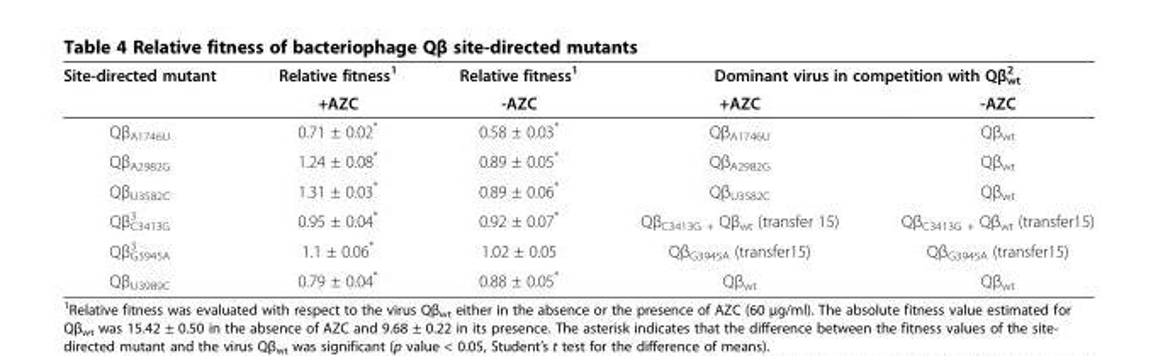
<table><thead><tr><td rowspan="2">Site-directed mutant</td><td rowspan="2">Relative fitness<sup>1</sup> +AZC</td><td rowspan="2">Relative fitness<sup>1</sup> -AZC</td><td colspan="2">Dominant virus in competition with Qβ<sub>wt</sub> <sup>2</sup></td></tr><tr><td>+AZC</td><td>-AZC</td></tr></thead><tbody><tr><td>Qβ<sub>A1746U</sub></td><td>0.71 ± 0.02*</td><td>0.58 ± 0.03*</td><td>Qβ<sub>A1746U</sub></td><td>Qβ<sub>wt</sub></td></tr><tr><td>Qβ<sub>A2982G</sub></td><td>1.24 ± 0.08*</td><td>0.89 ± 0.05*</td><td>Qβ<sub>A2982G</sub></td><td>Qβ<sub>wt</sub></td></tr><tr><td>Qβ<sub>U3582C</sub></td><td>1.31 ± 0.03*</td><td>0.89 ± 0.06*</td><td>Qβ<sub>U3582C</sub></td><td>Qβ<sub>wt</sub></td></tr><tr><td>Qβ<sub>C3413G</sub> <sup>3</sup></td><td>0.95 ± 0.04*</td><td>0.92 ± 0.07*</td><td>Qβ<sub>C3413G +</sub> Qβ<sub>wt</sub> (transfer 15)</td><td>Qβ<sub>C3413G +</sub> Qβ<sub>wt</sub> (transfer15)</td></tr><tr><td>Qβ<sub>G3945A</sub> <sup>3</sup></td><td>1.1 ± 0.06*</td><td>1.02 ± 0.05</td><td>Qβ<sub>G3945A</sub> (transfer15)</td><td>Qβ<sub>G3945A</sub> (transfer15)</td></tr><tr><td>Qβ<sub>U3989C</sub></td><td>0.79 ± 0.04*</td><td>0.88 ± 0.05*</td><td>Qβ<sub>wt</sub></td><td>Qβ<sub>wt</sub></td></tr></tbody></table>